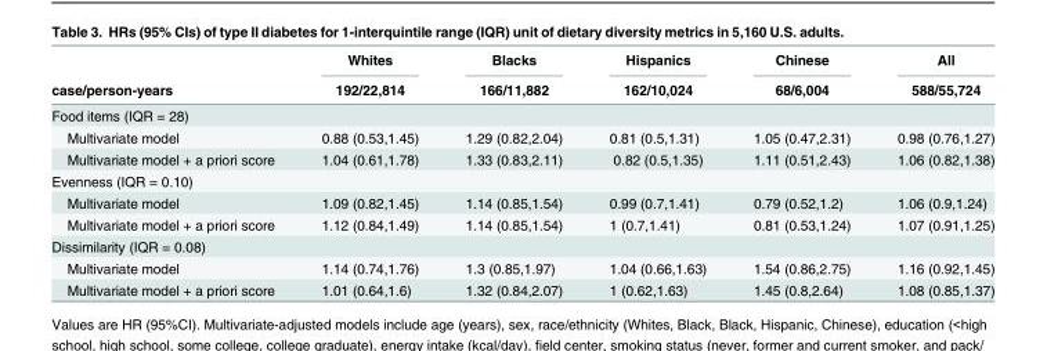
<table><thead><tr><td rowspan="2">case/person-years</td><td rowspan="2">Whites 192/22,814</td><td rowspan="2">Blacks 166/11,882</td><td rowspan="2">Hispanics 162/10,024</td><td rowspan="2">Chinese 68/6,004</td><td rowspan="2">All 588/55,724</td></tr><tr></tr></thead><tbody><tr><td colspan="6">Food items (IQR = 28)</td></tr><tr><td>Multivariate model</td><td>0.88 (0.53,1.45)</td><td>1.29 (0.82,2.04)</td><td>0.81 (0.5,1.31)</td><td>1.05 (0.47,2.31)</td><td>0.98 (0.76,1.27)</td></tr><tr><td>Multivariate model + a priori score</td><td>1.04 (0.61,1.78)</td><td>1.33 (0.83,2.11)</td><td>0.82 (0.5,1.35)</td><td>1.11 (0.51,2.43)</td><td>1.06 (0.82,1.38)</td></tr><tr><td colspan="6">Evenness (IQR = 0.10)</td></tr><tr><td>Multivariate model</td><td>1.09 (0.82,1.45)</td><td>1.14 (0.85,1.54)</td><td>0.99 (0.7,1.41)</td><td>0.79 (0.52,1.2)</td><td>1.06 (0.9,1.24)</td></tr><tr><td>Multivariate model + a priori score</td><td>1.12 (0.84,1.49)</td><td>1.14 (0.85,1.54)</td><td>1 (0.7,1.41)</td><td>0.81 (0.53,1.24)</td><td>1.07 (0.91,1.25)</td></tr><tr><td colspan="6">Dissimilarity (IQR = 0.08)</td></tr><tr><td>Multivariate model</td><td>1.14 (0.74,1.76)</td><td>1.3 (0.85,1.97)</td><td>1.04 (0.66,1.63)</td><td>1.54 (0.86,2.75)</td><td>1.16 (0.92,1.45)</td></tr><tr><td>Multivariate model + a priori score</td><td>1.01 (0.64,1.6)</td><td>1.32 (0.84,2.07)</td><td>1 (0.62,1.63)</td><td>1.45 (0.8,2.64)</td><td>1.08 (0.85,1.37)</td></tr></tbody></table>